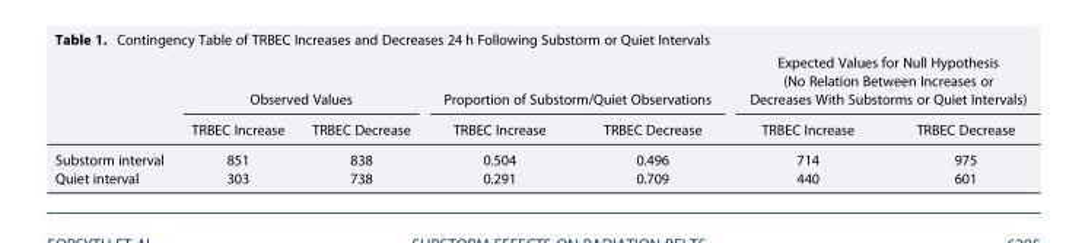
<table><thead><tr><td rowspan="2"></td><td colspan="2">Observed Values</td><td colspan="2">Proportion of Substorm/Quiet Observations</td><td colspan="2">Expected Values for Null Hypothesis (No Relation Between Increases or Decreases With Substorms or Quiet Intervals)</td></tr><tr><td>TRBEC Increase</td><td>TRBEC Decrease</td><td>TRBEC Increase</td><td>TRBEC Decrease</td><td>TRBEC Increase</td><td>TRBEC Decrease</td></tr></thead><tbody><tr><td>Substorm interval</td><td>851</td><td>838</td><td>0.504</td><td>0.496</td><td>714</td><td>975</td></tr><tr><td>Quiet interval</td><td>303</td><td>738</td><td>0.291</td><td>0.709</td><td>440</td><td>601</td></tr></tbody></table>